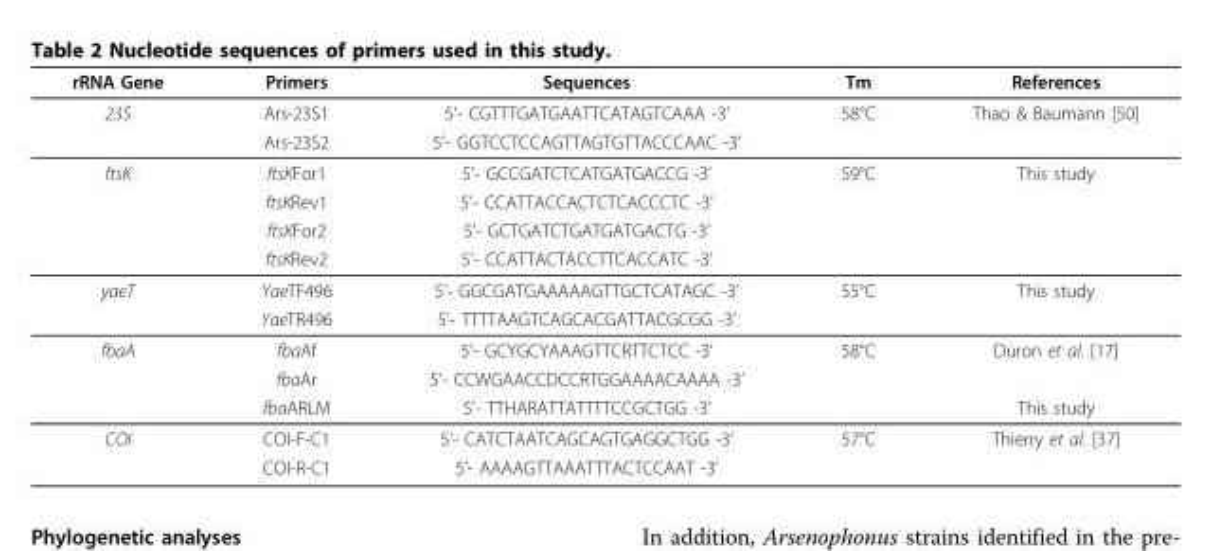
<table><thead><tr><td>rRNA Gene</td><td>Primers</td><td>Sequences</td><td>Tm</td><td>References</td></tr></thead><tbody><tr><td rowspan="2">23S</td><td>Ars-23S1</td><td>5’- CGTTTGATGAATTCATAGTCAAA -3’</td><td>58°C</td><td>Thao &amp; Baumann [50]</td></tr><tr><td>Ars-23S2</td><td>5’- GGTCCTCCAGTTAGTGTTACCCAAC -3’</td><td></td><td></td></tr><tr><td rowspan="4">ftsK</td><td>ftsKFor1</td><td>5’- GCCGATCTCATGATGACCG -3’</td><td>59°C</td><td>This study</td></tr><tr><td>ftsKRev1</td><td>5’- CCATTACCACTCTCACCCTC -3’</td><td></td><td></td></tr><tr><td>ftsKFor2</td><td>5’- GCTGATCTGATGATGACTG -3’</td><td></td><td></td></tr><tr><td>ftsKRev2</td><td>5’- CCATTACTACCTTCACCATC -3’</td><td></td><td></td></tr><tr><td rowspan="2">yaeT</td><td>YaeTF496</td><td>5’- GGCGATGAAAAAGTTGCTCATAGC -3’</td><td>55°C</td><td>This study</td></tr><tr><td>YaeTR496</td><td>5’- TTTTAAGTCAGCACGATTACGCGG -3’</td><td></td><td></td></tr><tr><td rowspan="3">fbaA</td><td>fbaAf</td><td>5’- GCYGCYAAAGTTCRTTCTCC -3’</td><td>58°C</td><td>Duron et al. [17]</td></tr><tr><td>fbaAr</td><td>5’- CCWGAACCDCCRTGGAAAACAAAA -3’</td><td></td><td></td></tr><tr><td>fbaARLM</td><td>5’- TTHARATTATTTTCCGCTGG -3’</td><td></td><td>This study</td></tr><tr><td rowspan="2">COI</td><td>COI-F-C1</td><td>5’- CATCTAATCAGCAGTGAGGCTGG -3’</td><td>57°C</td><td>Thierry et al. [37]</td></tr><tr><td>COI-R-C1</td><td>5’- AAAAGTTAAATTTACTCCAAT -3’</td><td></td><td></td></tr></tbody></table>